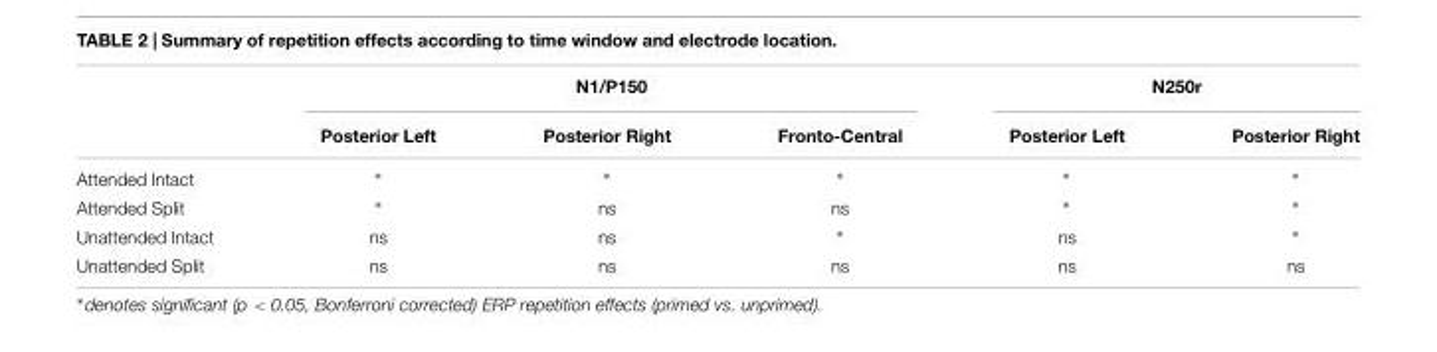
<table><thead><tr><td rowspan="2"></td><td colspan="3">N1/P150</td><td colspan="2">N250r</td></tr><tr><td>Posterior Left</td><td>Posterior Right</td><td>Fronto-Central</td><td>Posterior Left</td><td>Posterior Right</td></tr></thead><tbody><tr><td>Attended Intact</td><td>∗</td><td>∗</td><td>∗</td><td>∗</td><td>∗</td></tr><tr><td>Attended Split</td><td>∗</td><td>ns</td><td>ns</td><td>∗</td><td>∗</td></tr><tr><td>Unattended Intact</td><td>ns</td><td>ns</td><td>∗</td><td>ns</td><td>∗</td></tr><tr><td>Unattended Split</td><td>ns</td><td>ns</td><td>ns</td><td>ns</td><td>ns</td></tr></tbody></table>